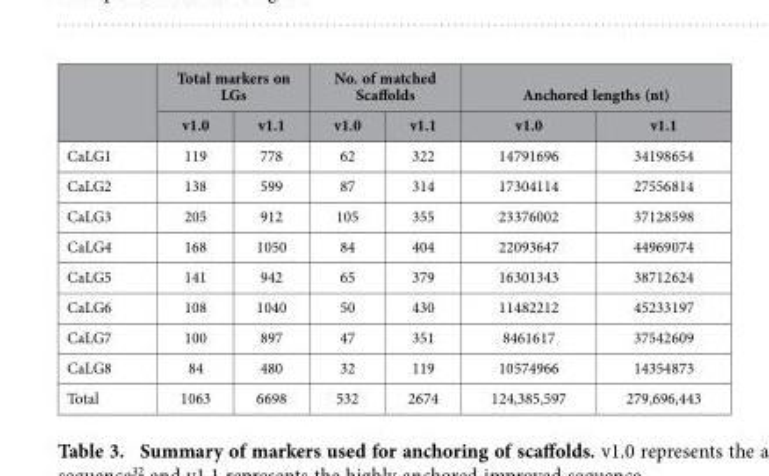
<table><thead><tr><td rowspan="2"></td><td colspan="2">Total markers on LGs</td><td colspan="2">No. of matched Scaffolds</td><td colspan="2">Anchored lengths (nt)</td></tr><tr><td>v1.0</td><td>v1.1</td><td>v1.0</td><td>v1.1</td><td>v1.0</td><td>v1.1</td></tr></thead><tbody><tr><td>CaLG1</td><td>119</td><td>778</td><td>62</td><td>322</td><td>14791696</td><td>34198654</td></tr><tr><td>CaLG2</td><td>138</td><td>599</td><td>87</td><td>314</td><td>17304114</td><td>27556814</td></tr><tr><td>CaLG3</td><td>205</td><td>912</td><td>105</td><td>355</td><td>23376002</td><td>37128598</td></tr><tr><td>CaLG4</td><td>168</td><td>1050</td><td>84</td><td>404</td><td>22093647</td><td>44969074</td></tr><tr><td>CaLG5</td><td>141</td><td>942</td><td>65</td><td>379</td><td>16301343</td><td>38712624</td></tr><tr><td>CaLG6</td><td>108</td><td>1040</td><td>50</td><td>430</td><td>11482212</td><td>45233197</td></tr><tr><td>CaLG7</td><td>100</td><td>897</td><td>47</td><td>351</td><td>8461617</td><td>37542609</td></tr><tr><td>CaLG8</td><td>84</td><td>480</td><td>32</td><td>119</td><td>10574966</td><td>14354873</td></tr><tr><td>Total</td><td>1063</td><td>6698</td><td>532</td><td>2674</td><td>124,385,597</td><td>279,696,443</td></tr></tbody></table>